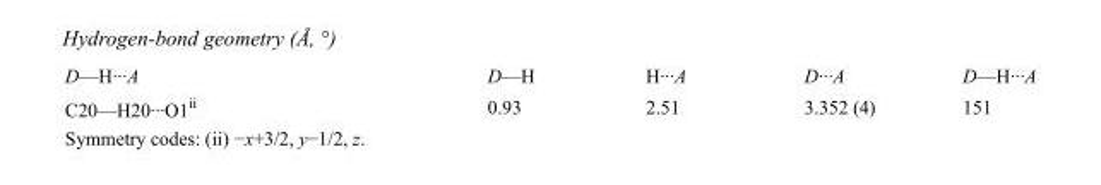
<table><tbody><tr><td>D—H···A</td><td>D—H</td><td>H···A</td><td>D···A</td><td>D—H···A</td></tr><tr><td>C20—H20···O1<sup>ii</sup></td><td>0.93</td><td>2.51</td><td>3.352 (4)</td><td>151</td></tr></tbody></table>